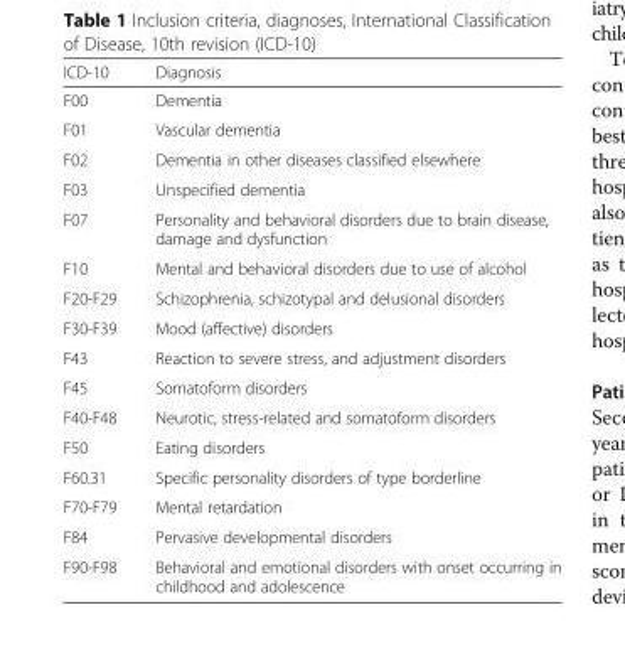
<table><thead><tr><td>ICD-10</td><td>Diagnosis</td></tr></thead><tbody><tr><td>F00</td><td>Dementia</td></tr><tr><td>F01</td><td>Vascular dementia</td></tr><tr><td>F02</td><td>Dementia in other diseases classified elsewhere</td></tr><tr><td>F03</td><td>Unspecified dementia</td></tr><tr><td>F07</td><td>Personality and behavioral disorders due to brain disease, damage and dysfunction</td></tr><tr><td>F10</td><td>Mental and behavioral disorders due to use of alcohol</td></tr><tr><td>F20-F29</td><td>Schizophrenia, schizotypal and delusional disorders</td></tr><tr><td>F30-F39</td><td>Mood (affective) disorders</td></tr><tr><td>F43</td><td>Reaction to severe stress, and adjustment disorders</td></tr><tr><td>F45</td><td>Somatoform disorders</td></tr><tr><td>F40-F48</td><td>Neurotic, stress-related and somatoform disorders</td></tr><tr><td>F50</td><td>Eating disorders</td></tr><tr><td>F60.31</td><td>Specific personality disorders of type borderline</td></tr><tr><td>F70-F79</td><td>Mental retardation</td></tr><tr><td>F84</td><td>Pervasive developmental disorders</td></tr><tr><td>F90-F98</td><td>Behavioral and emotional disorders with onset occurring in childhood and adolescence</td></tr></tbody></table>